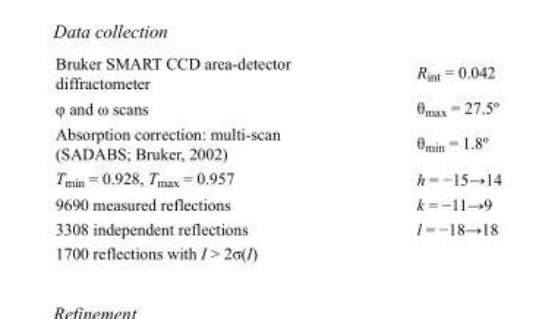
<table><tbody><tr><td>Bruker SMART CCD area-detector diffractometer</td><td>R<sub>int</sub> = 0.042</td></tr><tr><td>φ and ω scans</td><td>θ<sub>max</sub> = 27.5º</td></tr><tr><td>Absorption correction: multi-scan (SADABS; Bruker, 2002)</td><td>θ<sub>min</sub> = 1.8º</td></tr><tr><td>T<sub>min</sub> = 0.928, T<sub>max</sub> = 0.957</td><td>h = −15→14</td></tr><tr><td>9690 measured reflections</td><td>k = −11→9</td></tr><tr><td>3308 independent reflections</td><td>l = −18→18</td></tr><tr><td>1700 reflections with I &gt; 2σ(I)</td><td></td></tr></tbody></table>